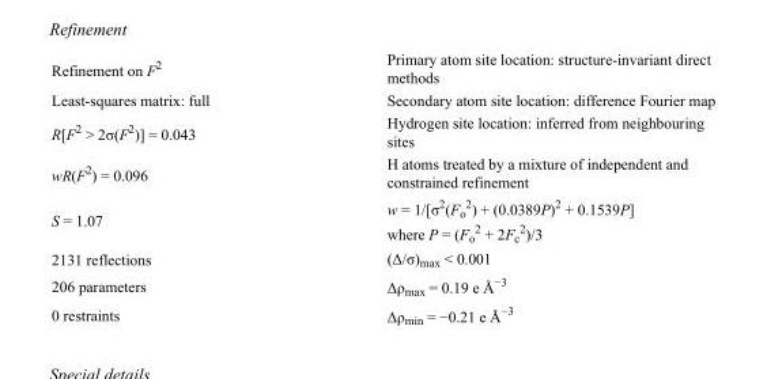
<table><tbody><tr><td>Refinement on F<sup>2</sup></td><td>Primary atom site location: structure-invariant direct methods</td></tr><tr><td>Least-squares matrix: full</td><td>Secondary atom site location: difference Fourier map</td></tr><tr><td>R[F<sup>2</sup> &gt; 2σ(F<sup>2</sup>)] = 0.043</td><td>Hydrogen site location: inferred from neighbouring sites</td></tr><tr><td>wR(F<sup>2</sup>) = 0.096</td><td>H atoms treated by a mixture of independent and constrained refinement</td></tr><tr><td>S = 1.07</td><td>w = 1/[σ<sup>2</sup>(F<sub>o</sub> <sup>2</sup>) + (0.0389P)<sup>2</sup> + 0.1539P] where P = (F<sub>o</sub> <sup>2</sup> + 2F<sub>c</sub> <sup>2</sup>)/3</td></tr><tr><td>2131 reflections</td><td>(Δ/σ)<sub>max</sub> &lt; 0.001</td></tr><tr><td>206 parameters</td><td>Δρ<sub>max</sub> = 0.19 e Å<sup>−3</sup></td></tr><tr><td>0 restraints</td><td>Δρ<sub>min</sub> = −0.21 e Å<sup>−3</sup></td></tr></tbody></table>